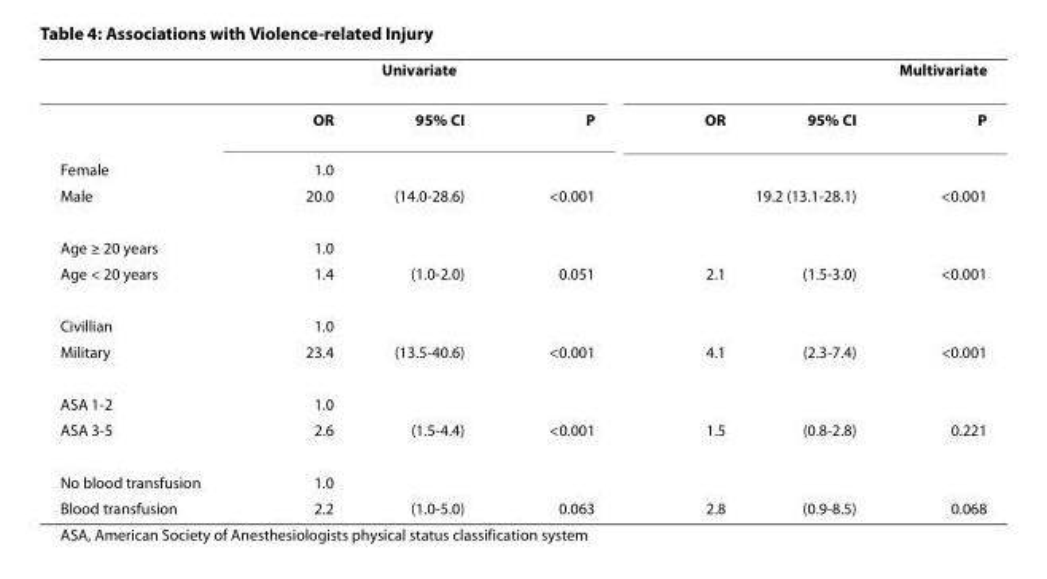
<table><thead><tr><td rowspan="2"></td><td colspan="3">Univariate</td><td colspan="3">Multivariate</td></tr><tr><td>OR</td><td>95% CI</td><td>P</td><td>OR</td><td>95% CI</td><td>P</td></tr></thead><tbody><tr><td>Female</td><td>1.0</td><td></td><td></td><td></td><td></td><td></td></tr><tr><td>Male</td><td>20.0</td><td>(14.0-28.6)</td><td>&lt;0.001</td><td colspan="2">19.2 (13.1-28.1)</td><td>&lt;0.001</td></tr><tr><td>Age ≥ 20 years</td><td>1.0</td><td></td><td></td><td></td><td></td><td></td></tr><tr><td>Age &lt; 20 years</td><td>1.4</td><td>(1.0-2.0)</td><td>0.051</td><td>2.1</td><td>(1.5-3.0)</td><td>&lt;0.001</td></tr><tr><td>Civillian</td><td>1.0</td><td></td><td></td><td></td><td></td><td></td></tr><tr><td>Military</td><td>23.4</td><td>(13.5-40.6)</td><td>&lt;0.001</td><td>4.1</td><td>(2.3-7.4)</td><td>&lt;0.001</td></tr><tr><td>ASA 1-2</td><td>1.0</td><td></td><td></td><td></td><td></td><td></td></tr><tr><td>ASA 3-5</td><td>2.6</td><td>(1.5-4.4)</td><td>&lt;0.001</td><td>1.5</td><td>(0.8-2.8)</td><td>0.221</td></tr><tr><td>No blood transfusion</td><td>1.0</td><td></td><td></td><td></td><td></td><td></td></tr><tr><td>Blood transfusion</td><td>2.2</td><td>(1.0-5.0)</td><td>0.063</td><td>2.8</td><td>(0.9-8.5)</td><td>0.068</td></tr></tbody></table>